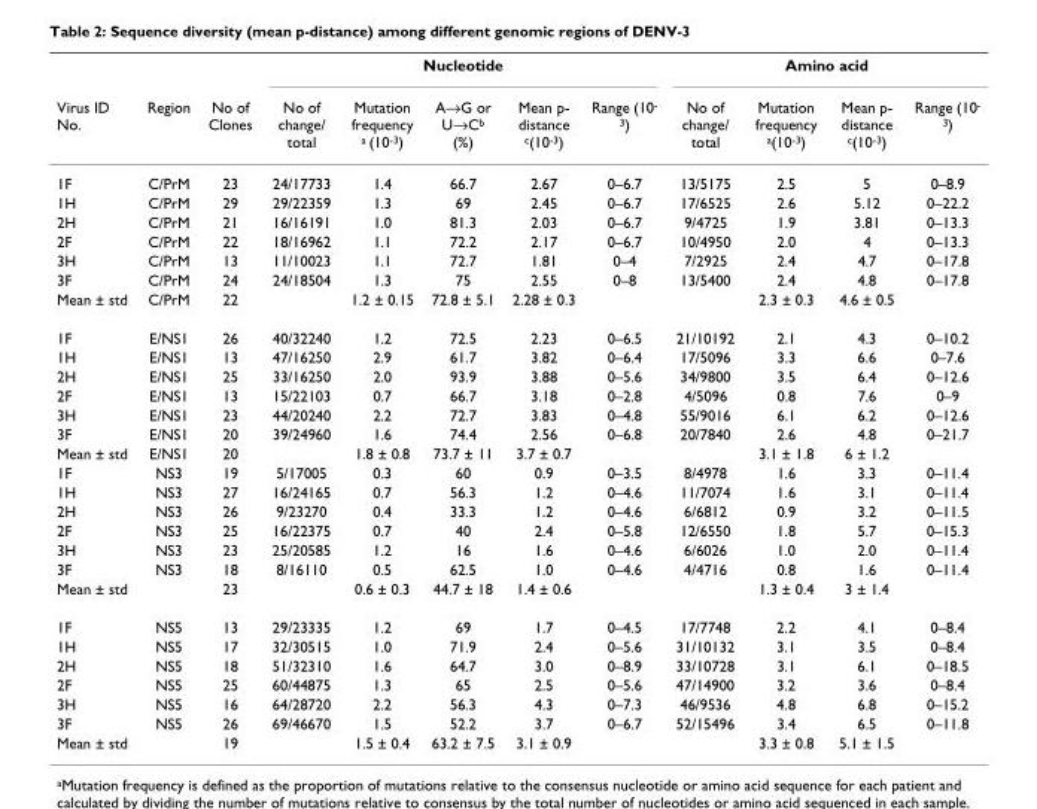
<table><thead><tr><td rowspan="2">Virus ID No.</td><td rowspan="2">Region</td><td rowspan="2">No of Clones</td><td colspan="5">Nucleotide</td><td colspan="4">Amino acid</td></tr><tr><td>No of change/ total</td><td>Mutation frequency <sup>a</sup> (10<sup>-3</sup>)</td><td>A→G or U→C<sup>b</sup> (%)</td><td>Mean p- distance <sup>c</sup>(10<sup>-3</sup>)</td><td>Range (10<sup>- 3</sup>)</td><td>No of change/ total</td><td>Mutation frequency <sup>a</sup>(10<sup>-3</sup>)</td><td>Mean p- distance <sup>c</sup>(10<sup>-3</sup>)</td><td>Range (10<sup>- 3</sup>)</td></tr></thead><tbody><tr><td>1F</td><td>C/PrM</td><td>23</td><td>24/17733</td><td>1.4</td><td>66.7</td><td>2.67</td><td>0–6.7</td><td>13/5175</td><td>2.5</td><td>5</td><td>0–8.9</td></tr><tr><td>1H</td><td>C/PrM</td><td>29</td><td>29/22359</td><td>1.3</td><td>69</td><td>2.45</td><td>0–6.7</td><td>17/6525</td><td>2.6</td><td>5.12</td><td>0–22.2</td></tr><tr><td>2H</td><td>C/PrM</td><td>21</td><td>16/16191</td><td>1.0</td><td>81.3</td><td>2.03</td><td>0–6.7</td><td>9/4725</td><td>1.9</td><td>3.81</td><td>0–13.3</td></tr><tr><td>2F</td><td>C/PrM</td><td>22</td><td>18/16962</td><td>1.1</td><td>72.2</td><td>2.17</td><td>0–6.7</td><td>10/4950</td><td>2.0</td><td>4</td><td>0–13.3</td></tr><tr><td>3H</td><td>C/PrM</td><td>13</td><td>11/10023</td><td>1.1</td><td>72.7</td><td>1.81</td><td>0–4</td><td>7/2925</td><td>2.4</td><td>4.7</td><td>0–17.8</td></tr><tr><td>3F</td><td>C/PrM</td><td>24</td><td>24/18504</td><td>1.3</td><td>75</td><td>2.55</td><td>0–8</td><td>13/5400</td><td>2.4</td><td>4.8</td><td>0–17.8</td></tr><tr><td>Mean ± std</td><td>C/PrM</td><td>22</td><td></td><td>1.2 ± 0.15</td><td>72.8 ± 5.1</td><td>2.28 ± 0.3</td><td></td><td></td><td>2.3 ± 0.3</td><td>4.6 ± 0.5</td><td></td></tr><tr><td>1F</td><td>E/NS1</td><td>26</td><td>40/32240</td><td>1.2</td><td>72.5</td><td>2.23</td><td>0–6.5</td><td>21/10192</td><td>2.1</td><td>4.3</td><td>0–10.2</td></tr><tr><td>1H</td><td>E/NS1</td><td>13</td><td>47/16250</td><td>2.9</td><td>61.7</td><td>3.82</td><td>0–6.4</td><td>17/5096</td><td>3.3</td><td>6.6</td><td>0–7.6</td></tr><tr><td>2H</td><td>E/NS1</td><td>25</td><td>33/16250</td><td>2.0</td><td>93.9</td><td>3.88</td><td>0–5.6</td><td>34/9800</td><td>3.5</td><td>6.4</td><td>0–12.6</td></tr><tr><td>2F</td><td>E/NS1</td><td>13</td><td>15/22103</td><td>0.7</td><td>66.7</td><td>3.18</td><td>0–2.8</td><td>4/5096</td><td>0.8</td><td>7.6</td><td>0–9</td></tr><tr><td>3H</td><td>E/NS1</td><td>23</td><td>44/20240</td><td>2.2</td><td>72.7</td><td>3.83</td><td>0–4.8</td><td>55/9016</td><td>6.1</td><td>6.2</td><td>0–12.6</td></tr><tr><td>3F</td><td>E/NS1</td><td>20</td><td>39/24960</td><td>1.6</td><td>74.4</td><td>2.56</td><td>0–6.8</td><td>20/7840</td><td>2.6</td><td>4.8</td><td>0–21.7</td></tr><tr><td>Mean ± std</td><td>E/NS1</td><td>20</td><td></td><td>1.8 ± 0.8</td><td>73.7 ± 11</td><td>3.7 ± 0.7</td><td></td><td></td><td>3.1 ± 1.8</td><td>6 ± 1.2</td><td></td></tr><tr><td>1F</td><td>NS3</td><td>19</td><td>5/17005</td><td>0.3</td><td>60</td><td>0.9</td><td>0–3.5</td><td>8/4978</td><td>1.6</td><td>3.3</td><td>0–11.4</td></tr><tr><td>1H</td><td>NS3</td><td>27</td><td>16/24165</td><td>0.7</td><td>56.3</td><td>1.2</td><td>0–4.6</td><td>11/7074</td><td>1.6</td><td>3.1</td><td>0–11.4</td></tr><tr><td>2H</td><td>NS3</td><td>26</td><td>9/23270</td><td>0.4</td><td>33.3</td><td>1.2</td><td>0–4.6</td><td>6/6812</td><td>0.9</td><td>3.2</td><td>0–11.5</td></tr><tr><td>2F</td><td>NS3</td><td>25</td><td>16/22375</td><td>0.7</td><td>40</td><td>2.4</td><td>0–5.8</td><td>12/6550</td><td>1.8</td><td>5.7</td><td>0–15.3</td></tr><tr><td>3H</td><td>NS3</td><td>23</td><td>25/20585</td><td>1.2</td><td>16</td><td>1.6</td><td>0–4.6</td><td>6/6026</td><td>1.0</td><td>2.0</td><td>0–11.4</td></tr><tr><td>3F</td><td>NS3</td><td>18</td><td>8/16110</td><td>0.5</td><td>62.5</td><td>1.0</td><td>0–4.6</td><td>4/4716</td><td>0.8</td><td>1.6</td><td>0–11.4</td></tr><tr><td>Mean ± std</td><td></td><td>23</td><td></td><td>0.6 ± 0.3</td><td>44.7 ± 18</td><td>1.4 ± 0.6</td><td></td><td></td><td>1.3 ± 0.4</td><td>3 ± 1.4</td><td></td></tr><tr><td>1F</td><td>NS5</td><td>13</td><td>29/23335</td><td>1.2</td><td>69</td><td>1.7</td><td>0–4.5</td><td>17/7748</td><td>2.2</td><td>4.1</td><td>0–8.4</td></tr><tr><td>1H</td><td>NS5</td><td>17</td><td>32/30515</td><td>1.0</td><td>71.9</td><td>2.4</td><td>0–5.6</td><td>31/10132</td><td>3.1</td><td>3.5</td><td>0–8.4</td></tr><tr><td>2H</td><td>NS5</td><td>18</td><td>51/32310</td><td>1.6</td><td>64.7</td><td>3.0</td><td>0–8.9</td><td>33/10728</td><td>3.1</td><td>6.1</td><td>0–18.5</td></tr><tr><td>2F</td><td>NS5</td><td>25</td><td>60/44875</td><td>1.3</td><td>65</td><td>2.5</td><td>0–5.6</td><td>47/14900</td><td>3.2</td><td>3.6</td><td>0–8.4</td></tr><tr><td>3H</td><td>NS5</td><td>16</td><td>64/28720</td><td>2.2</td><td>56.3</td><td>4.3</td><td>0–7.3</td><td>46/9536</td><td>4.8</td><td>6.8</td><td>0–15.2</td></tr><tr><td>3F</td><td>NS5</td><td>26</td><td>69/46670</td><td>1.5</td><td>52.2</td><td>3.7</td><td>0–6.7</td><td>52/15496</td><td>3.4</td><td>6.5</td><td>0–11.8</td></tr><tr><td>Mean ± std</td><td></td><td>19</td><td></td><td>1.5 ± 0.4</td><td>63.2 ± 7.5</td><td>3.1 ± 0.9</td><td></td><td></td><td>3.3 ± 0.8</td><td>5.1 ± 1.5</td><td></td></tr></tbody></table>